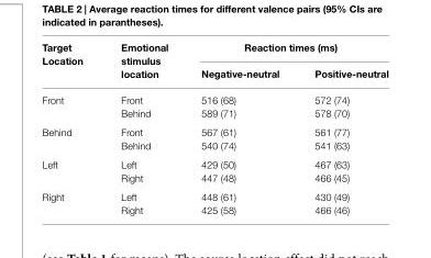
<table><thead><tr><td rowspan="2">Target Location</td><td rowspan="2">Emotional stimulus location</td><td colspan="2">Reaction times (ms)</td></tr><tr><td>Negative-neutral</td><td>Positive-neutral</td></tr></thead><tbody><tr><td rowspan="2">Front</td><td>Front</td><td>516 (68)</td><td>572 (74)</td></tr><tr><td>Behind</td><td>589 (71)</td><td>578 (70)</td></tr><tr><td rowspan="2">Behind</td><td>Front</td><td>567 (61)</td><td>561 (77)</td></tr><tr><td>Behind</td><td>540 (74)</td><td>541 (63)</td></tr><tr><td rowspan="2">Left</td><td>Left</td><td>429 (50)</td><td>467 (63)</td></tr><tr><td>Right</td><td>447 (48)</td><td>466 (45)</td></tr><tr><td rowspan="2">Right</td><td>Left</td><td>448 (61)</td><td>430 (49)</td></tr><tr><td>Right</td><td>425 (58)</td><td>466 (46)</td></tr></tbody></table>